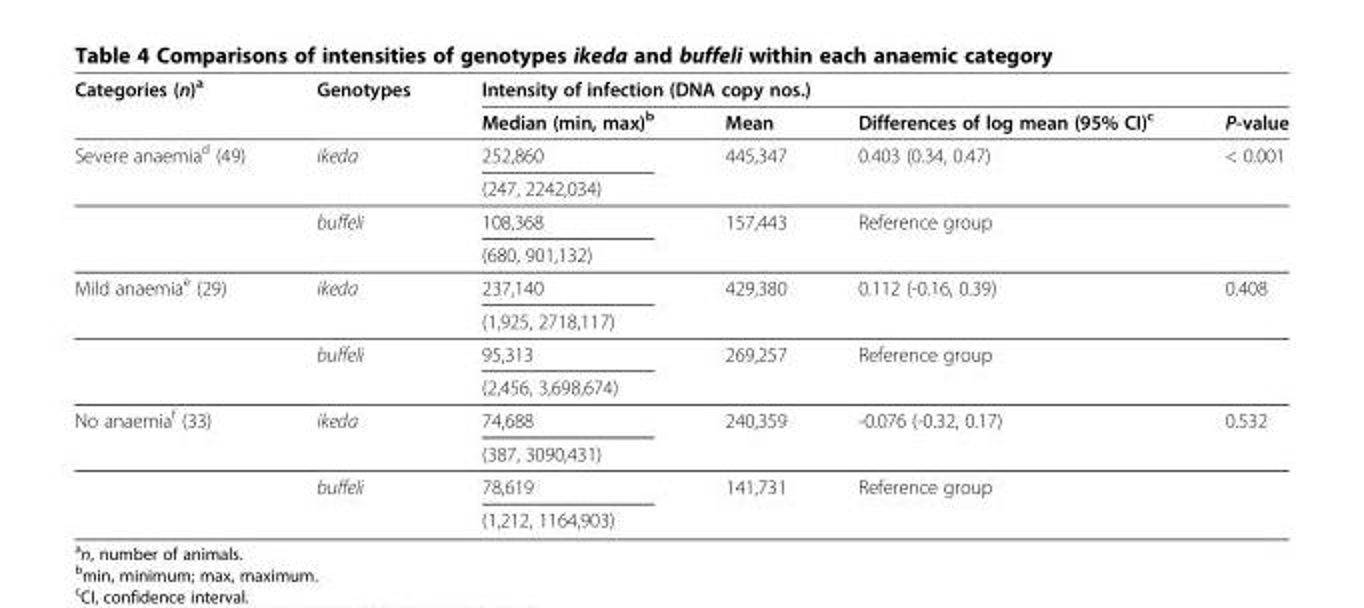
<table><thead><tr><td rowspan="2">Categories (n)<sup>a</sup></td><td rowspan="2">Genotypes</td><td colspan="4">Intensity of infection (DNA copy nos.)</td></tr><tr><td>Median (min, max)<sup>b</sup></td><td>Mean</td><td>Differences of log mean (95% CI)<sup>c</sup></td><td>P-value</td></tr></thead><tbody><tr><td rowspan="4">Severe anaemia<sup>d</sup> (49)</td><td rowspan="2">ikeda</td><td>252,860</td><td rowspan="2">445,347</td><td rowspan="2">0.403 (0.34, 0.47)</td><td rowspan="2">&lt; 0.001</td></tr><tr><td>(247, 2242,034)</td></tr><tr><td rowspan="2">buffeli</td><td>108,368</td><td rowspan="2">157,443</td><td rowspan="2">Reference group</td><td rowspan="2"></td></tr><tr><td>(680, 901,132)</td></tr><tr><td rowspan="4">Mild anaemia<sup>e</sup> (29)</td><td rowspan="2">ikeda</td><td>237,140</td><td rowspan="2">429,380</td><td rowspan="2">0.112 (-0.16, 0.39)</td><td rowspan="2">0.408</td></tr><tr><td>(1,925, 2718,117)</td></tr><tr><td rowspan="2">buffeli</td><td>95,313</td><td rowspan="2">269,257</td><td rowspan="2">Reference group</td><td rowspan="2"></td></tr><tr><td>(2,456, 3,698,674)</td></tr><tr><td rowspan="4">No anaemia<sup>f</sup> (33)</td><td rowspan="2">ikeda</td><td>74,688</td><td rowspan="2">240,359</td><td rowspan="2">-0.076 (-0.32, 0.17)</td><td rowspan="2">0.532</td></tr><tr><td>(387, 3090,431)</td></tr><tr><td rowspan="2">buffeli</td><td>78,619</td><td rowspan="2">141,731</td><td rowspan="2">Reference group</td><td rowspan="2"></td></tr><tr><td>(1,212, 1164,903)</td></tr></tbody></table>